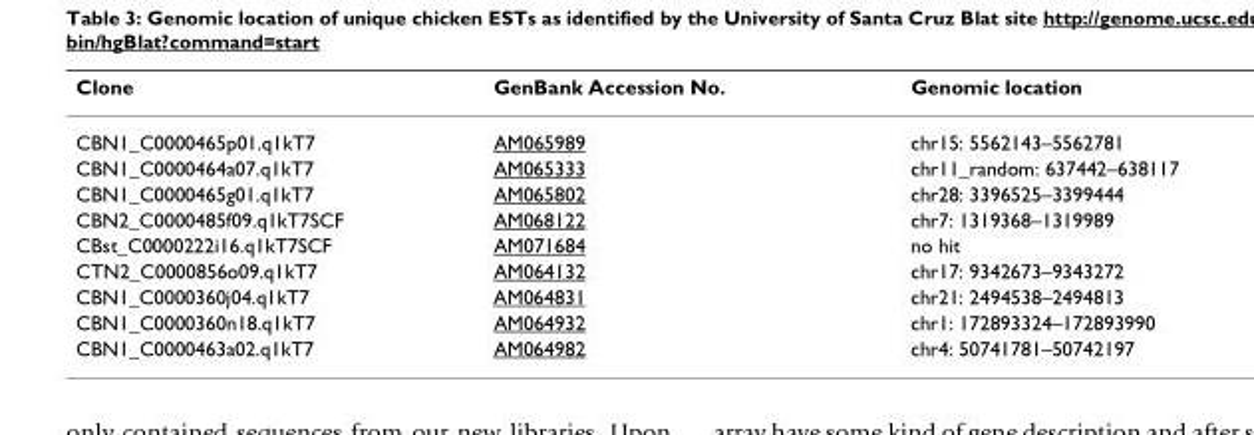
<table><thead><tr><td>Clone</td><td>GenBank Accession No.</td><td>Genomic location</td></tr></thead><tbody><tr><td>CBN1_C0000465p01.q1kT7</td><td>AM065989</td><td>chr15: 5562143–5562781</td></tr><tr><td>CBN1_C0000464a07.q1kT7</td><td>AM065333</td><td>chr11_random: 637442–638117</td></tr><tr><td>CBN1_C0000465g01.q1kT7</td><td>AM065802</td><td>chr28: 3396525–3399444</td></tr><tr><td>CBN2_C0000485f09.q1kT7SCF</td><td>AM068122</td><td>chr7: 1319368–1319989</td></tr><tr><td>CBst_C0000222i16.q1kT7SCF</td><td>AM071684</td><td>no hit</td></tr><tr><td>CTN2_C0000856o09.q1kT7</td><td>AM064132</td><td>chr17: 9342673–9343272</td></tr><tr><td>CBN1_C0000360j04.q1kT7</td><td>AM064831</td><td>chr21: 2494538–2494813</td></tr><tr><td>CBN1_C0000360n18.q1kT7</td><td>AM064932</td><td>chr1: 172893324–172893990</td></tr><tr><td>CBN1_C0000463a02.q1kT7</td><td>AM064982</td><td>chr4: 50741781–50742197</td></tr></tbody></table>